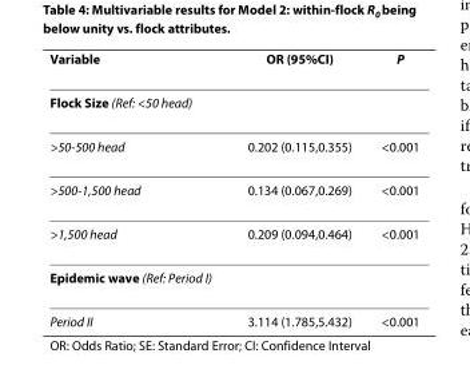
<table><thead><tr><td>Variable</td><td>OR (95%CI)</td><td>P</td></tr></thead><tbody><tr><td colspan="3">Flock Size (Ref: &lt;50 head)</td></tr><tr><td>&gt;50-500 head</td><td>0.202 (0.115,0.355)</td><td>&lt;0.001</td></tr><tr><td>&gt;500-1,500 head</td><td>0.134 (0.067,0.269)</td><td>&lt;0.001</td></tr><tr><td>&gt;1,500 head</td><td>0.209 (0.094,0.464)</td><td>&lt;0.001</td></tr><tr><td colspan="3">Epidemic wave (Ref: Period I)</td></tr><tr><td>Period II</td><td>3.114 (1.785,5.432)</td><td>&lt;0.001</td></tr></tbody></table>